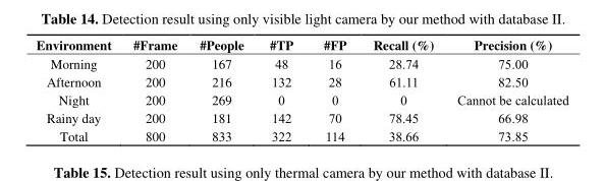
<table><thead><tr><td>Environment</td><td>#Frame</td><td>#People</td><td>#TP</td><td>#FP</td><td>Recall (%)</td><td>Precision (%)</td></tr></thead><tbody><tr><td>Morning</td><td>200</td><td>167</td><td>48</td><td>16</td><td>28.74</td><td>75.00</td></tr><tr><td>Afternoon</td><td>200</td><td>216</td><td>132</td><td>28</td><td>61.11</td><td>82.50</td></tr><tr><td>Night</td><td>200</td><td>269</td><td>0</td><td>0</td><td>0</td><td>Cannot be calculated</td></tr><tr><td>Rainy day</td><td>200</td><td>181</td><td>142</td><td>70</td><td>78.45</td><td>66.98</td></tr><tr><td>Total</td><td>800</td><td>833</td><td>322</td><td>114</td><td>38.66</td><td>73.85</td></tr></tbody></table>